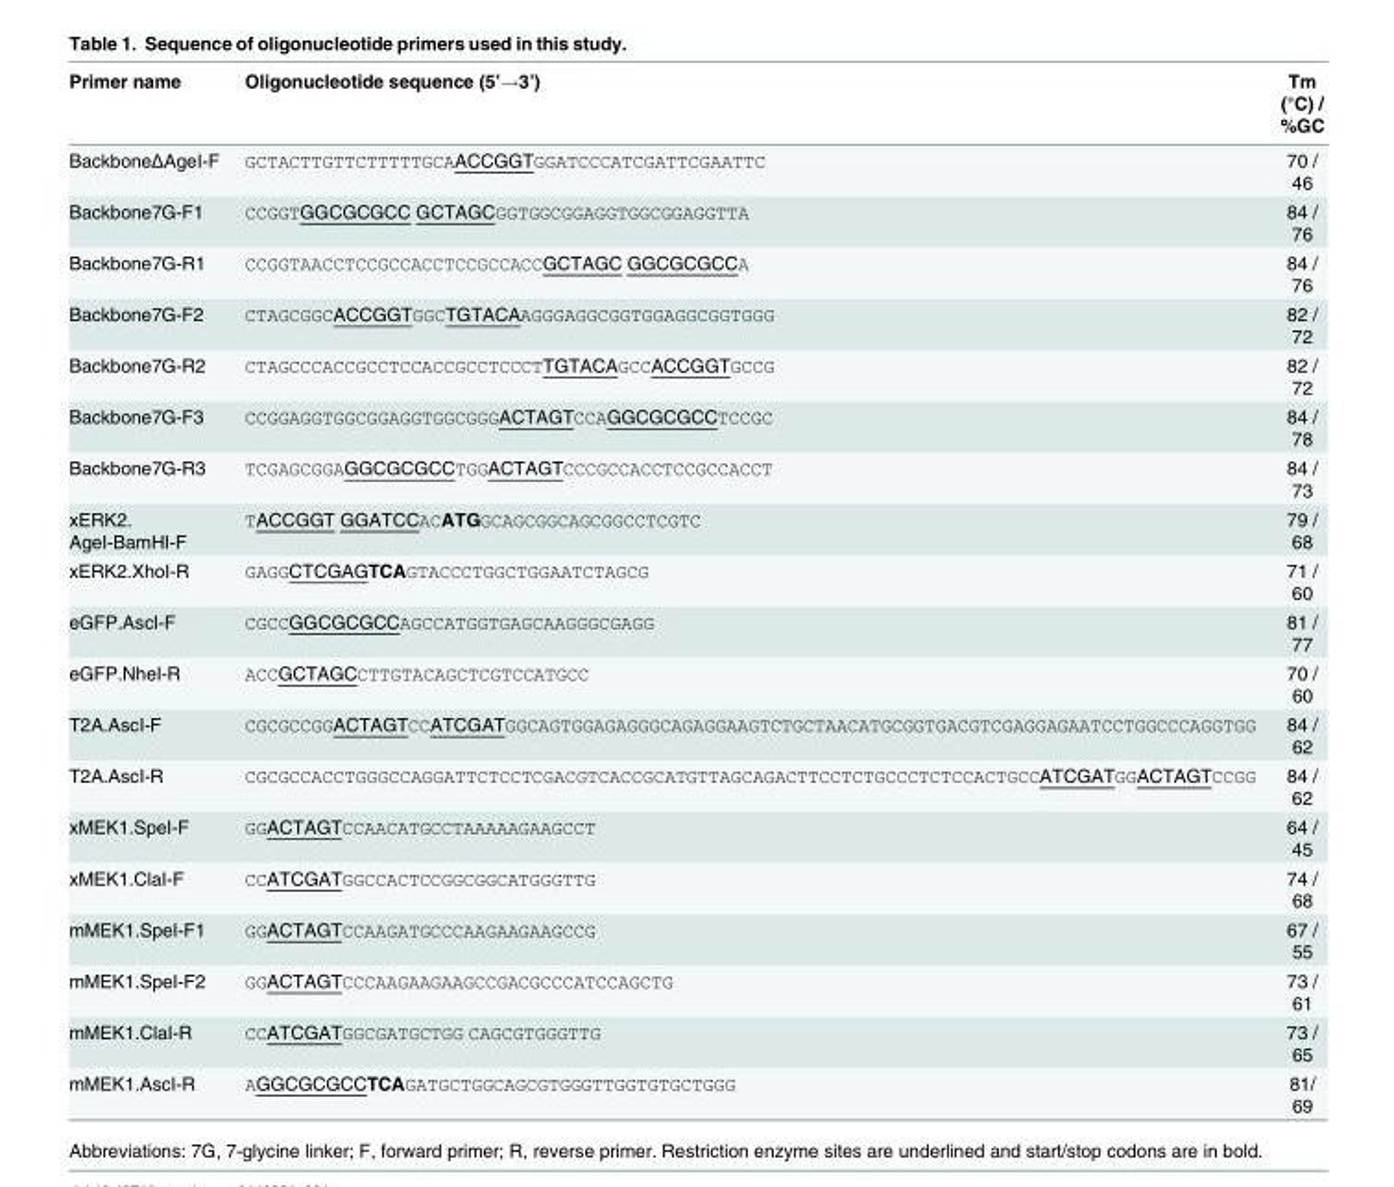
<table><thead><tr><td>Primer name</td><td>Oligonucleotide sequence (5’→3’)</td><td>Tm (°C) / %GC</td></tr></thead><tbody><tr><td>BackboneΔAgeI-F</td><td>GCTACTTGTTCTTTTTGCAACCGGTGGATCCCATCGATTCGAATTC</td><td>70 / 46</td></tr><tr><td>Backbone7G-F1</td><td>CCGGTGGCGCGCC GCTAGCGGTGGCGGAGGTGGCGGAGGTTA</td><td>84 / 76</td></tr><tr><td>Backbone7G-R1</td><td>CCGGTAACCTCCGCCACCTCCGCCACCGCTAGC GGCGCGCCA</td><td>84 / 76</td></tr><tr><td>Backbone7G-F2</td><td>CTAGCGGCACCGGTGGCTGTACAAGGGAGGCGGTGGAGGCGGTGGG</td><td>82 / 72</td></tr><tr><td>Backbone7G-R2</td><td>CTAGCCCACCGCCTCCACCGCCTCCCTTGTACAGCCACCGGTGCCG</td><td>82 / 72</td></tr><tr><td>Backbone7G-F3</td><td>CCGGAGGTGGCGGAGGTGGCGGGACTAGTCCAGGCGCGCCTCCGC</td><td>84 / 78</td></tr><tr><td>Backbone7G-R3</td><td>TCGAGCGGAGGCGCGCCTGGACTAGTCCCGCCACCTCCGCCACCT</td><td>84 / 73</td></tr><tr><td>xERK2. AgeI-BamHI-F</td><td>TACCGGT GGATCCACATGGCAGCGGCAGCGGCCTCGTC</td><td>79 / 68</td></tr><tr><td>xERK2.XhoI-R</td><td>GAGGCTCGAGTCAGTACCCTGGCTGGAATCTAGCG</td><td>71 / 60</td></tr><tr><td>eGFP.AscI-F</td><td>CGCCGGCGCGCCAGCCATGGTGAGCAAGGGCGAGG</td><td>81 / 77</td></tr><tr><td>eGFP.NheI-R</td><td>ACCGCTAGCCTTGTACAGCTCGTCCATGCC</td><td>70 / 60</td></tr><tr><td>T2A.AscI-F</td><td>CGCGCCGGACTAGTCCATCGATGGCAGTGGAGAGGGCAGAGGAAGTCTGCTAACATGCGGTGACGTCGAGGAGAATCCTGGCCCAGGTGG</td><td>84 / 62</td></tr><tr><td>T2A.AscI-R</td><td>CGCGCCACCTGGGCCAGGATTCTCCTCGACGTCACCGCATGTTAGCAGACTTCCTCTGCCCTCTCCACTGCCATCGATGGACTAGTCCGG</td><td>84 / 62</td></tr><tr><td>xMEK1.SpeI-F</td><td>GGACTAGTCCAACATGCCTAAAAAGAAGCCT</td><td>64 / 45</td></tr><tr><td>xMEK1.ClaI-F</td><td>CCATCGATGGCCACTCCGGCGGCATGGGTTG</td><td>74 / 68</td></tr><tr><td>mMEK1.SpeI-F1</td><td>GGACTAGTCCAAGATGCCCAAGAAGAAGCCG</td><td>67 / 55</td></tr><tr><td>mMEK1.SpeI-F2</td><td>GGACTAGTCCCAAGAAGAAGCCGACGCCCATCCAGCTG</td><td>73 / 61</td></tr><tr><td>mMEK1.ClaI-R</td><td>CCATCGATGGCGATGCTGG CAGCGTGGGTTG</td><td>73 / 65</td></tr><tr><td>mMEK1.AscI-R</td><td>AGGCGCGCCTCAGATGCTGGCAGCGTGGGTTGGTGTGCTGGG</td><td>81/ 69</td></tr></tbody></table>